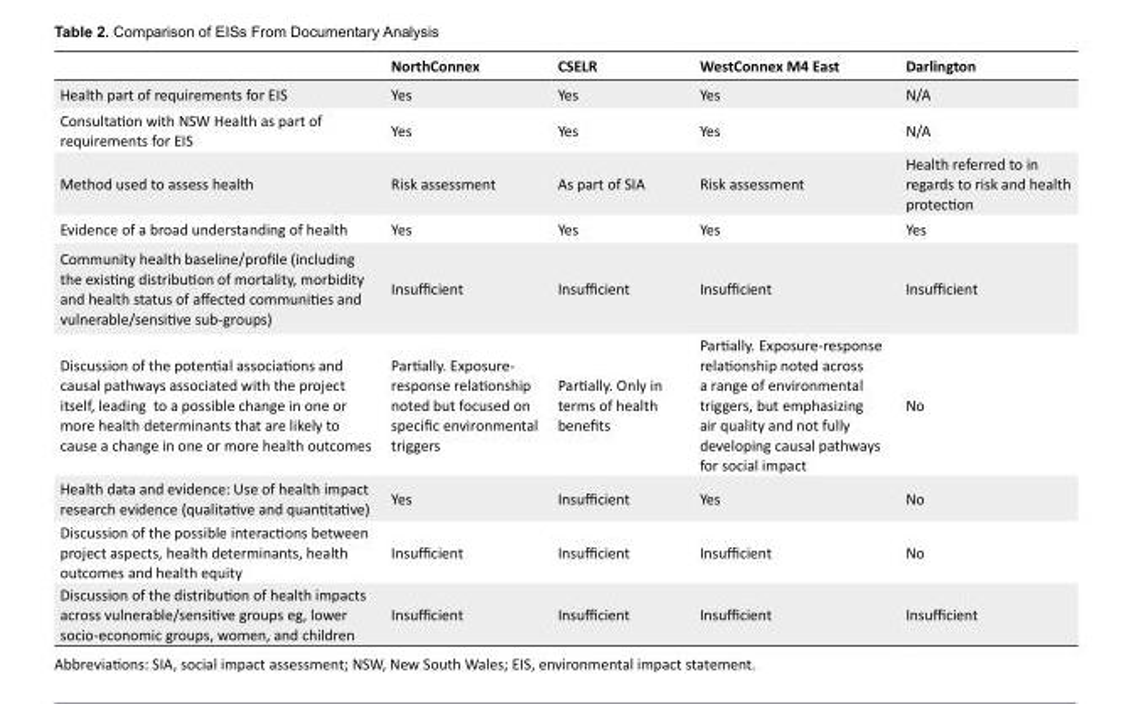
<table><thead><tr><td></td><td>NorthConnex</td><td>CSELR</td><td>WestConnex M4 East</td><td>Darlington</td></tr></thead><tbody><tr><td>Health part of requirements for EIS</td><td>Yes</td><td>Yes</td><td>Yes</td><td>N/A</td></tr><tr><td>Consultation with NSW Health as part of requirements for EIS</td><td>Yes</td><td>Yes</td><td>Yes</td><td>N/A</td></tr><tr><td>Method used to assess health</td><td>Risk assessment</td><td>As part of SIA</td><td>Risk assessment</td><td>Health referred to in regards to risk and health protection</td></tr><tr><td>Evidence of a broad understanding of health</td><td>Yes</td><td>Yes</td><td>Yes</td><td>Yes</td></tr><tr><td>Community health baseline/profile (including the existing distribution of mortality, morbidity and health status of affected communities and vulnerable/sensitive sub-groups)</td><td>Insufficient</td><td>Insufficient</td><td>Insufficient</td><td>Insufficient</td></tr><tr><td>Discussion of the potential associations and causal pathways associated with the project itself, leading to a possible change in one or more health determinants that are likely to cause a change in one or more health outcomes</td><td>Partially. Exposure- response relationship noted but focused on specific environmental triggers</td><td>Partially. Only in terms of health benefits</td><td>Partially. Exposure-response relationship noted across a range of environmental triggers, but emphasizing air quality and not fully developing causal pathways for social impact</td><td>No</td></tr><tr><td>Health data and evidence: Use of health impact research evidence (qualitative and quantitative)</td><td>Yes</td><td>Insufficient</td><td>Yes</td><td>No</td></tr><tr><td>Discussion of the possible interactions between project aspects, health determinants, health outcomes and health equity</td><td>Insufficient</td><td>Insufficient</td><td>Insufficient</td><td>No</td></tr><tr><td>Discussion of the distribution of health impacts across vulnerable/sensitive groups eg, lower socio-economic groups, women, and children</td><td>Insufficient</td><td>Insufficient</td><td>Insufficient</td><td>Insufficient</td></tr></tbody></table>